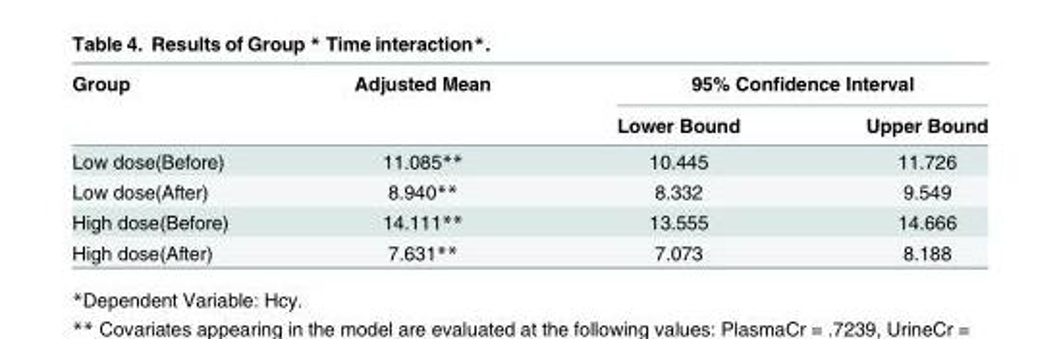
<table><thead><tr><td rowspan="2">Group</td><td rowspan="2">Adjusted Mean</td><td colspan="2">95% Confidence Interval</td></tr><tr><td>Lower Bound</td><td>Upper Bound</td></tr></thead><tbody><tr><td>Low dose(Before)</td><td>11.085**</td><td>10.445</td><td>11.726</td></tr><tr><td>Low dose(After)</td><td>8.940**</td><td>8.332</td><td>9.549</td></tr><tr><td>High dose(Before)</td><td>14.111**</td><td>13.555</td><td>14.666</td></tr><tr><td>High dose(After)</td><td>7.631**</td><td>7.073</td><td>8.188</td></tr></tbody></table>